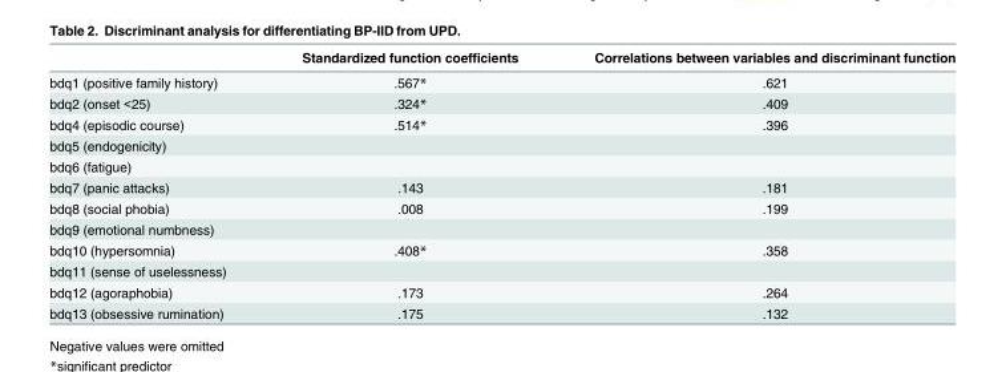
<table><thead><tr><td></td><td>Standardized function coefficients</td><td>Correlations between variables and discriminant function</td></tr></thead><tbody><tr><td>bdq1 (positive family history)</td><td>.567*</td><td>.621</td></tr><tr><td>bdq2 (onset &lt;25)</td><td>.324*</td><td>.409</td></tr><tr><td>bdq4 (episodic course)</td><td>.514*</td><td>.396</td></tr><tr><td colspan="3">bdq5 (endogenicity)</td></tr><tr><td colspan="3">bdq6 (fatigue)</td></tr><tr><td>bdq7 (panic attacks)</td><td>.143</td><td>.181</td></tr><tr><td>bdq8 (social phobia)</td><td>.008</td><td>.199</td></tr><tr><td colspan="3">bdq9 (emotional numbness)</td></tr><tr><td>bdq10 (hypersomnia)</td><td>.408*</td><td>.358</td></tr><tr><td colspan="3">bdq11 (sense of uselessness)</td></tr><tr><td>bdq12 (agoraphobia)</td><td>.173</td><td>.264</td></tr><tr><td>bdq13 (obsessive rumination)</td><td>.175</td><td>.132</td></tr></tbody></table>